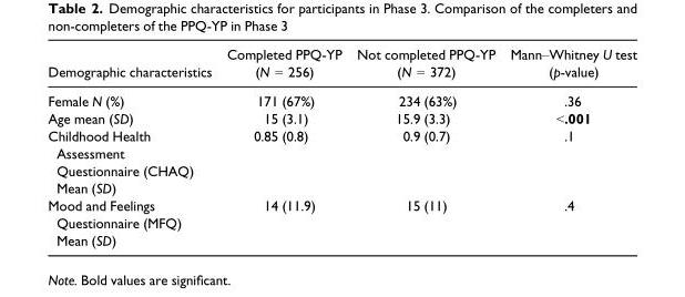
<table><thead><tr><td>Demographic characteristics</td><td>Completed PPQ-YP (N = 256)</td><td>Not completed PPQ-YP (N = 372)</td><td>Mann–Whitney U test (p-value)</td></tr></thead><tbody><tr><td>Female N (%)</td><td>171 (67%)</td><td>234 (63%)</td><td>.36</td></tr><tr><td>Age mean (SD)</td><td>15 (3.1)</td><td>15.9 (3.3)</td><td>&lt;.001</td></tr><tr><td>Childhood Health Assessment Questionnaire (CHAQ) Mean (SD)</td><td>0.85 (0.8)</td><td>0.9 (0.7)</td><td>.1</td></tr><tr><td>Mood and Feelings Questionnaire (MFQ) Mean (SD)</td><td>14 (11.9)</td><td>15 (11)</td><td>.4</td></tr></tbody></table>